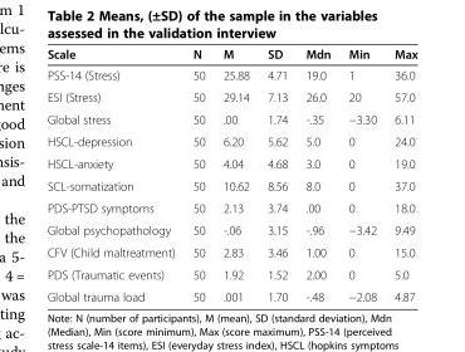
<table><thead><tr><td>Scale</td><td>N</td><td>M</td><td>SD</td><td>Mdn</td><td>Min</td><td>Max</td></tr></thead><tbody><tr><td>PSS-14 (Stress)</td><td>50</td><td>25.88</td><td>4.71</td><td>19.0</td><td>1</td><td>36.0</td></tr><tr><td>ESI (Stress)</td><td>50</td><td>29.14</td><td>7.13</td><td>26.0</td><td>20</td><td>57.0</td></tr><tr><td>Global stress</td><td>50</td><td>.00</td><td>1.74</td><td>-.35</td><td>−3.30</td><td>6.11</td></tr><tr><td>HSCL-depression</td><td>50</td><td>6.20</td><td>5.62</td><td>5.0</td><td>0</td><td>24.0</td></tr><tr><td>HSCL-anxiety</td><td>50</td><td>4.04</td><td>4.68</td><td>3.0</td><td>0</td><td>19.0</td></tr><tr><td>SCL-somatization</td><td>50</td><td>10.62</td><td>8.56</td><td>8.0</td><td>0</td><td>37.0</td></tr><tr><td>PDS-PTSD symptoms</td><td>50</td><td>2.13</td><td>3.74</td><td>.00</td><td>0</td><td>18.0</td></tr><tr><td>Global psychopathology</td><td>50</td><td>-.06</td><td>3.15</td><td>-.96</td><td>−3.42</td><td>9.49</td></tr><tr><td>CFV (Child maltreatment)</td><td>50</td><td>2.83</td><td>3.46</td><td>1.00</td><td>0</td><td>15.0</td></tr><tr><td>PDS (Traumatic events)</td><td>50</td><td>1.92</td><td>1.52</td><td>2.00</td><td>0</td><td>5.0</td></tr><tr><td>Global trauma load</td><td>50</td><td>.001</td><td>1.70</td><td>-.48</td><td>−2.08</td><td>4.87</td></tr></tbody></table>